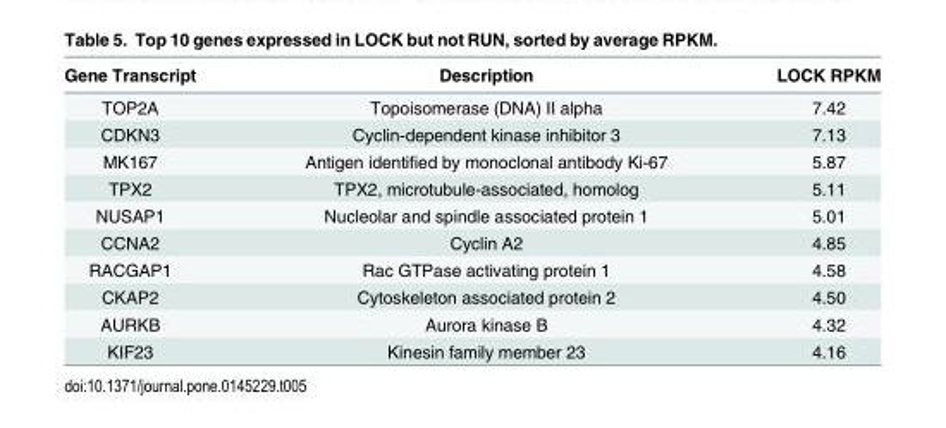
<table><thead><tr><td>Gene Transcript</td><td>Description</td><td>LOCK RPKM</td></tr></thead><tbody><tr><td>TOP2A</td><td>Topoisomerase (DNA) II alpha</td><td>7.42</td></tr><tr><td>CDKN3</td><td>Cyclin-dependent kinase inhibitor 3</td><td>7.13</td></tr><tr><td>MK167</td><td>Antigen identified by monoclonal antibody Ki-67</td><td>5.87</td></tr><tr><td>TPX2</td><td>TPX2, microtubule-associated, homolog</td><td>5.11</td></tr><tr><td>NUSAP1</td><td>Nucleolar and spindle associated protein 1</td><td>5.01</td></tr><tr><td>CCNA2</td><td>Cyclin A2</td><td>4.85</td></tr><tr><td>RACGAP1</td><td>Rac GTPase activating protein 1</td><td>4.58</td></tr><tr><td>CKAP2</td><td>Cytoskeleton associated protein 2</td><td>4.50</td></tr><tr><td>AURKB</td><td>Aurora kinase B</td><td>4.32</td></tr><tr><td>KIF23</td><td>Kinesin family member 23</td><td>4.16</td></tr></tbody></table>